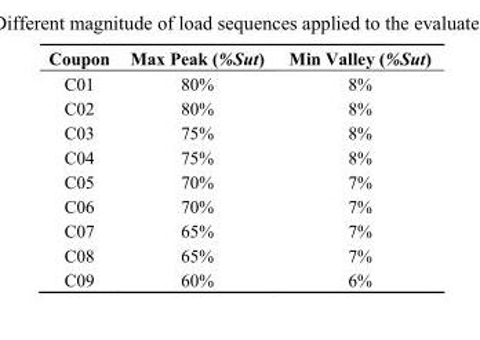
<table><thead><tr><td>Coupon</td><td>Max Peak (%Sut)</td><td>Min Valley (%Sut)</td></tr></thead><tbody><tr><td>C01</td><td>80%</td><td>8%</td></tr><tr><td>C02</td><td>80%</td><td>8%</td></tr><tr><td>C03</td><td>75%</td><td>8%</td></tr><tr><td>C04</td><td>75%</td><td>8%</td></tr><tr><td>C05</td><td>70%</td><td>7%</td></tr><tr><td>C06</td><td>70%</td><td>7%</td></tr><tr><td>C07</td><td>65%</td><td>7%</td></tr><tr><td>C08</td><td>65%</td><td>7%</td></tr><tr><td>C09</td><td>60%</td><td>6%</td></tr></tbody></table>